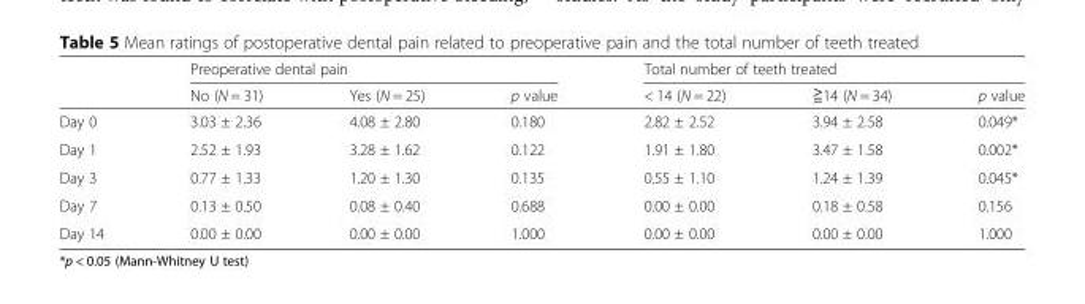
<table><thead><tr><td rowspan="2"></td><td colspan="3">Preoperative dental pain</td><td colspan="3">Total number of teeth treated</td></tr><tr><td>No (N = 31)</td><td>Yes (N = 25)</td><td>p value</td><td>&lt; 14 (N = 22)</td><td>≧14 (N = 34)</td><td>p value</td></tr></thead><tbody><tr><td>Day 0</td><td>3.03 ± 2.36</td><td>4.08 ± 2.80</td><td>0.180</td><td>2.82 ± 2.52</td><td>3.94 ± 2.58</td><td>0.049*</td></tr><tr><td>Day 1</td><td>2.52 ± 1.93</td><td>3.28 ± 1.62</td><td>0.122</td><td>1.91 ± 1.80</td><td>3.47 ± 1.58</td><td>0.002*</td></tr><tr><td>Day 3</td><td>0.77 ± 1.33</td><td>1.20 ± 1.30</td><td>0.135</td><td>0.55 ± 1.10</td><td>1.24 ± 1.39</td><td>0.045*</td></tr><tr><td>Day 7</td><td>0.13 ± 0.50</td><td>0.08 ± 0.40</td><td>0.688</td><td>0.00 ± 0.00</td><td>0.18 ± 0.58</td><td>0.156</td></tr><tr><td>Day 14</td><td>0.00 ± 0.00</td><td>0.00 ± 0.00</td><td>1.000</td><td>0.00 ± 0.00</td><td>0.00 ± 0.00</td><td>1.000</td></tr></tbody></table>